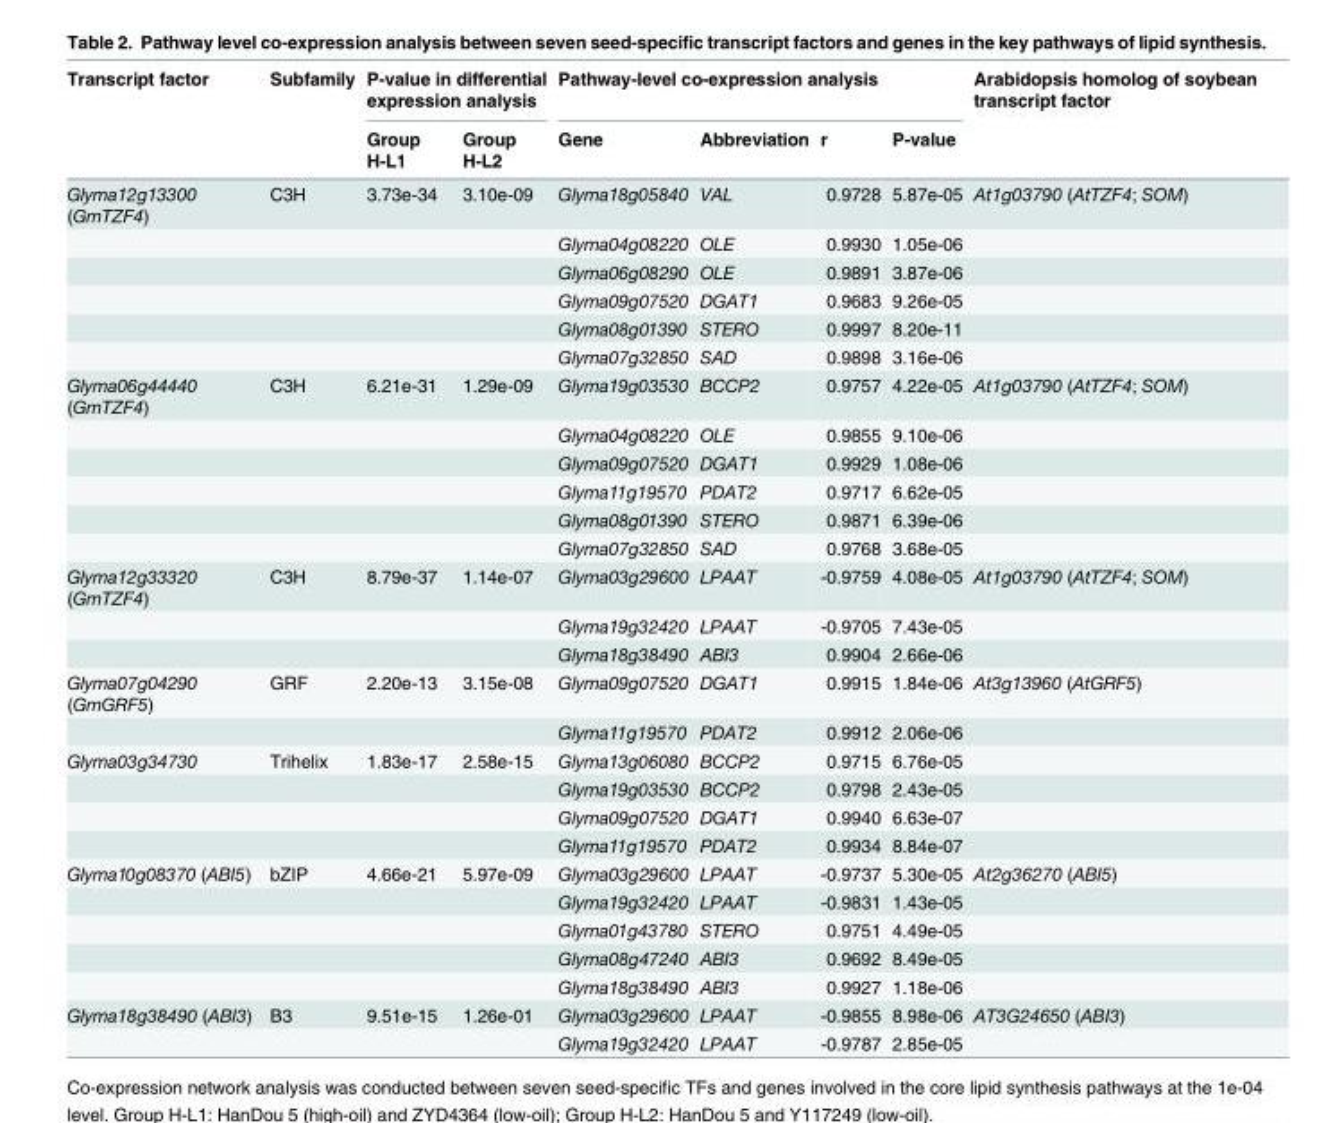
<table><thead><tr><td rowspan="2">Transcript factor</td><td rowspan="2">Subfamily</td><td colspan="2">P-value in differential expression analysis</td><td colspan="4">Pathway-level co-expression analysis</td><td rowspan="2">Arabidopsis homolog of soybean transcript factor</td></tr><tr><td>Group H-L1</td><td>Group H-L2</td><td>Gene</td><td>Abbreviation</td><td>r</td><td>P-value</td></tr></thead><tbody><tr><td rowspan="6">Glyma12g13300 (GmTZF4)</td><td>C3H</td><td>3.73e-34</td><td>3.10e-09</td><td>Glyma18g05840</td><td>VAL</td><td>0.9728</td><td>5.87e-05</td><td>At1g03790 (AtTZF4; SOM)</td></tr><tr><td></td><td></td><td></td><td>Glyma04g08220</td><td>OLE</td><td>0.9930</td><td>1.05e-06</td><td></td></tr><tr><td></td><td></td><td></td><td>Glyma06g08290</td><td>OLE</td><td>0.9891</td><td>3.87e-06</td><td></td></tr><tr><td></td><td></td><td></td><td>Glyma09g07520</td><td>DGAT1</td><td>0.9683</td><td>9.26e-05</td><td></td></tr><tr><td></td><td></td><td></td><td>Glyma08g01390</td><td>STERO</td><td>0.9997</td><td>8.20e-11</td><td></td></tr><tr><td></td><td></td><td></td><td>Glyma07g32850</td><td>SAD</td><td>0.9898</td><td>3.16e-06</td><td></td></tr><tr><td rowspan="6">Glyma06g44440 (GmTZF4)</td><td>C3H</td><td>6.21e-31</td><td>1.29e-09</td><td>Glyma19g03530</td><td>BCCP2</td><td>0.9757</td><td>4.22e-05</td><td>At1g03790 (AtTZF4; SOM)</td></tr><tr><td></td><td></td><td></td><td>Glyma04g08220</td><td>OLE</td><td>0.9855</td><td>9.10e-06</td><td></td></tr><tr><td></td><td></td><td></td><td>Glyma09g07520</td><td>DGAT1</td><td>0.9929</td><td>1.08e-06</td><td></td></tr><tr><td></td><td></td><td></td><td>Glyma11g19570</td><td>PDAT2</td><td>0.9717</td><td>6.62e-05</td><td></td></tr><tr><td></td><td></td><td></td><td>Glyma08g01390</td><td>STERO</td><td>0.9871</td><td>6.39e-06</td><td></td></tr><tr><td></td><td></td><td></td><td>Glyma07g32850</td><td>SAD</td><td>0.9768</td><td>3.68e-05</td><td></td></tr><tr><td rowspan="3">Glyma12g33320 (GmTZF4)</td><td>C3H</td><td>8.79e-37</td><td>1.14e-07</td><td>Glyma03g29600</td><td>LPAAT</td><td>-0.9759</td><td>4.08e-05</td><td>At1g03790 (AtTZF4; SOM)</td></tr><tr><td></td><td></td><td></td><td>Glyma19g32420</td><td>LPAAT</td><td>-0.9705</td><td>7.43e-05</td><td></td></tr><tr><td></td><td></td><td></td><td>Glyma18g38490</td><td>ABI3</td><td>0.9904</td><td>2.66e-06</td><td></td></tr><tr><td rowspan="2">Glyma07g04290 (GmGRF5)</td><td>GRF</td><td>2.20e-13</td><td>3.15e-08</td><td>Glyma09g07520</td><td>DGAT1</td><td>0.9915</td><td>1.84e-06</td><td>At3g13960 (AtGRF5)</td></tr><tr><td></td><td></td><td></td><td>Glyma11g19570</td><td>PDAT2</td><td>0.9912</td><td>2.06e-06</td><td></td></tr><tr><td rowspan="4">Glyma03g34730</td><td>Trihelix</td><td>1.83e-17</td><td>2.58e-15</td><td>Glyma13g06080</td><td>BCCP2</td><td>0.9715</td><td>6.76e-05</td><td></td></tr><tr><td></td><td></td><td></td><td>Glyma19g03530</td><td>BCCP2</td><td>0.9798</td><td>2.43e-05</td><td></td></tr><tr><td></td><td></td><td></td><td>Glyma09g07520</td><td>DGAT1</td><td>0.9940</td><td>6.63e-07</td><td></td></tr><tr><td></td><td></td><td></td><td>Glyma11g19570</td><td>PDAT2</td><td>0.9934</td><td>8.84e-07</td><td></td></tr><tr><td rowspan="5">Glyma10g08370 (ABI5)</td><td>bZIP</td><td>4.66e-21</td><td>5.97e-09</td><td>Glyma03g29600</td><td>LPAAT</td><td>-0.9737</td><td>5.30e-05</td><td>At2g36270 (ABI5)</td></tr><tr><td></td><td></td><td></td><td>Glyma19g32420</td><td>LPAAT</td><td>-0.9831</td><td>1.43e-05</td><td></td></tr><tr><td></td><td></td><td></td><td>Glyma01g43780</td><td>STERO</td><td>0.9751</td><td>4.49e-05</td><td></td></tr><tr><td></td><td></td><td></td><td>Glyma08g47240</td><td>ABI3</td><td>0.9692</td><td>8.49e-05</td><td></td></tr><tr><td></td><td></td><td></td><td>Glyma18g38490</td><td>ABI3</td><td>0.9927</td><td>1.18e-06</td><td></td></tr><tr><td rowspan="2">Glyma18g38490 (ABI3)</td><td>B3</td><td>9.51e-15</td><td>1.26e-01</td><td>Glyma03g29600</td><td>LPAAT</td><td>-0.9855</td><td>8.98e-06</td><td>AT3G24650 (ABI3)</td></tr><tr><td></td><td></td><td></td><td>Glyma19g32420</td><td>LPAAT</td><td>-0.9787</td><td>2.85e-05</td><td></td></tr></tbody></table>